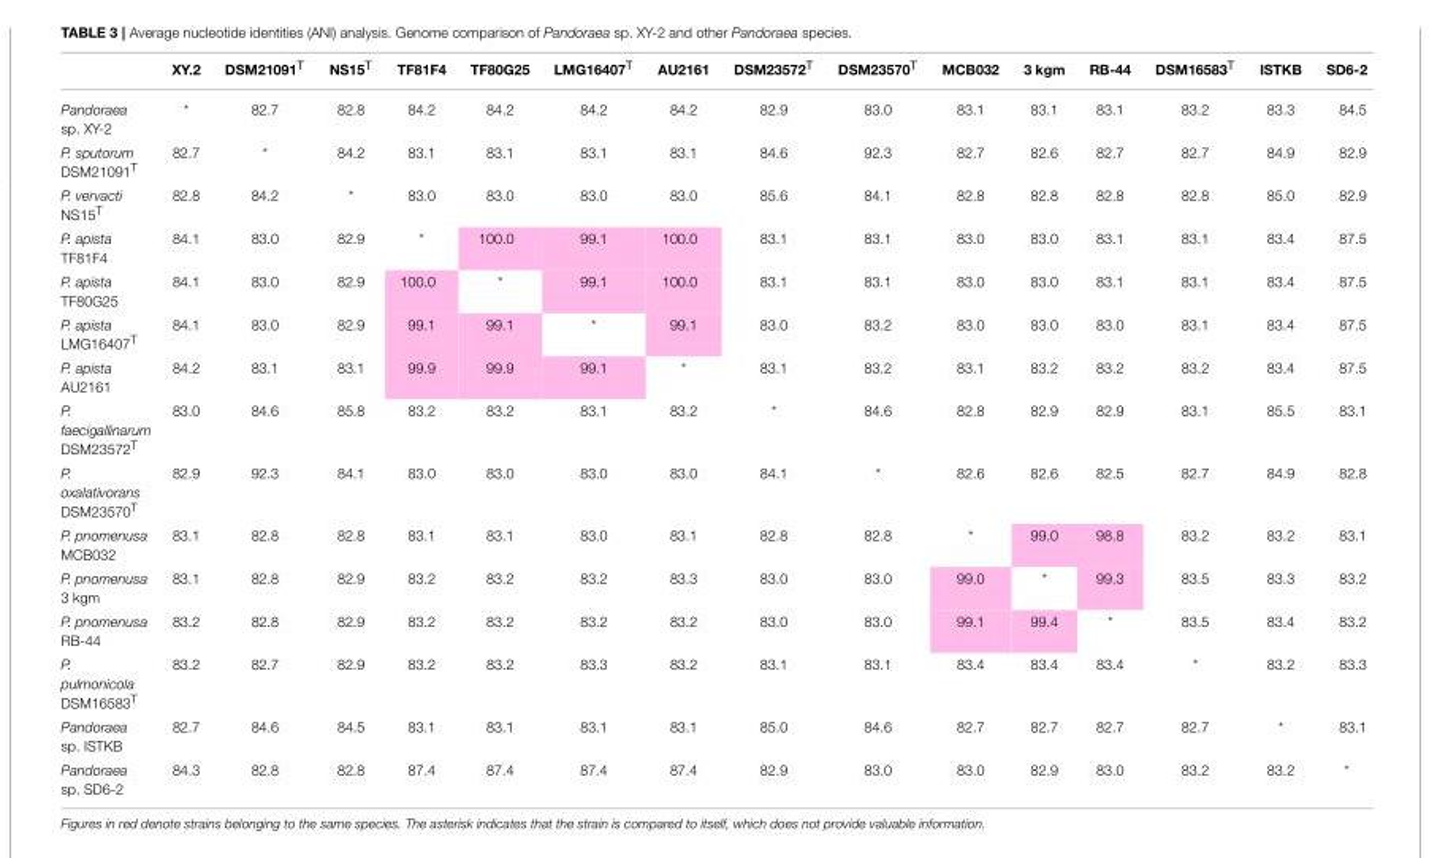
<table><thead><tr><td></td><td>XY.2</td><td>DSM21091T</td><td>NS15T</td><td>TF81F4</td><td>TF80G25</td><td>LMG16407T</td><td>AU2161</td><td>DSM23572T</td><td>DSM23570T</td><td>MCB032</td><td>3 kgm</td><td>RB-44</td><td>DSM16583T</td><td>ISTKB</td><td>SD6-2</td></tr></thead><tbody><tr><td>Pandoraea sp. XY-2</td><td>*</td><td>82.7</td><td>82.8</td><td>84.2</td><td>84.2</td><td>84.2</td><td>84.2</td><td>82.9</td><td>83.0</td><td>83.1</td><td>83.1</td><td>83.1</td><td>83.2</td><td>83.3</td><td>84.5</td></tr><tr><td>P. sputorum DSM21091<sup>T</sup></td><td>82.7</td><td>*</td><td>84.2</td><td>83.1</td><td>83.1</td><td>83.1</td><td>83.1</td><td>84.6</td><td>92.3</td><td>82.7</td><td>82.6</td><td>82.7</td><td>82.7</td><td>84.9</td><td>82.9</td></tr><tr><td>P. vervacti NS15<sup>T</sup></td><td>82.8</td><td>84.2</td><td>*</td><td>83.0</td><td>83.0</td><td>83.0</td><td>83.0</td><td>85.6</td><td>84.1</td><td>82.8</td><td>82.8</td><td>82.8</td><td>82.8</td><td>85.0</td><td>82.9</td></tr><tr><td>P. apista TF81F4</td><td>84.1</td><td>83.0</td><td>82.9</td><td>*</td><td>100.0</td><td>99.1</td><td>100.0</td><td>83.1</td><td>83.1</td><td>83.0</td><td>83.0</td><td>83.1</td><td>83.1</td><td>83.4</td><td>87.5</td></tr><tr><td>P. apista TF80G25</td><td>84.1</td><td>83.0</td><td>82.9</td><td>100.0</td><td>*</td><td>99.1</td><td>100.0</td><td>83.1</td><td>83.1</td><td>83.0</td><td>83.0</td><td>83.1</td><td>83.1</td><td>83.4</td><td>87.5</td></tr><tr><td>P. apista LMG16407<sup>T</sup></td><td>84.1</td><td>83.0</td><td>82.9</td><td>99.1</td><td>99.1</td><td>*</td><td>99.1</td><td>83.0</td><td>83.2</td><td>83.0</td><td>83.0</td><td>83.0</td><td>83.1</td><td>83.4</td><td>87.5</td></tr><tr><td>P. apista AU2161</td><td>84.2</td><td>83.1</td><td>83.1</td><td>99.9</td><td>99.9</td><td>99.1</td><td>*</td><td>83.1</td><td>83.2</td><td>83.1</td><td>83.2</td><td>83.2</td><td>83.2</td><td>83.4</td><td>87.5</td></tr><tr><td>P. faecigallinarum DSM23572<sup>T</sup></td><td>83.0</td><td>84.6</td><td>85.8</td><td>83.2</td><td>83.2</td><td>83.1</td><td>83.2</td><td>*</td><td>84.6</td><td>82.8</td><td>82.9</td><td>82.9</td><td>83.1</td><td>85.5</td><td>83.1</td></tr><tr><td>P. oxalativorans DSM23570<sup>T</sup></td><td>82.9</td><td>92.3</td><td>84.1</td><td>83.0</td><td>83.0</td><td>83.0</td><td>83.0</td><td>84.1</td><td>*</td><td>82.6</td><td>82.6</td><td>82.5</td><td>82.7</td><td>84.9</td><td>82.8</td></tr><tr><td>P. pnomenusa MCB032</td><td>83.1</td><td>82.8</td><td>82.8</td><td>83.1</td><td>83.1</td><td>83.0</td><td>83.1</td><td>82.8</td><td>82.8</td><td>*</td><td>99.0</td><td>98.8</td><td>83.2</td><td>83.2</td><td>83.1</td></tr><tr><td>P. pnomenusa 3 kgm</td><td>83.1</td><td>82.8</td><td>82.9</td><td>83.2</td><td>83.2</td><td>83.2</td><td>83.3</td><td>83.0</td><td>83.0</td><td>99.0</td><td>*</td><td>99.3</td><td>83.5</td><td>83.3</td><td>83.2</td></tr><tr><td>P. pnomenusa RB-44</td><td>83.2</td><td>82.8</td><td>82.9</td><td>83.2</td><td>83.2</td><td>83.2</td><td>83.2</td><td>83.0</td><td>83.0</td><td>99.1</td><td>99.4</td><td>*</td><td>83.5</td><td>83.4</td><td>83.2</td></tr><tr><td>P. pulmonicola DSM16583<sup>T</sup></td><td>83.2</td><td>82.7</td><td>82.9</td><td>83.2</td><td>83.2</td><td>83.3</td><td>83.2</td><td>83.1</td><td>83.1</td><td>83.4</td><td>83.4</td><td>83.4</td><td>*</td><td>83.2</td><td>83.3</td></tr><tr><td>Pandoraea sp. ISTKB</td><td>82.7</td><td>84.6</td><td>84.5</td><td>83.1</td><td>83.1</td><td>83.1</td><td>83.1</td><td>85.0</td><td>84.6</td><td>82.7</td><td>82.7</td><td>82.7</td><td>82.7</td><td>*</td><td>83.1</td></tr><tr><td>Pandoraea sp. SD6-2</td><td>84.3</td><td>82.8</td><td>82.8</td><td>87.4</td><td>87.4</td><td>87.4</td><td>87.4</td><td>82.9</td><td>83.0</td><td>83.0</td><td>82.9</td><td>83.0</td><td>83.2</td><td>83.2</td><td>*</td></tr></tbody></table>